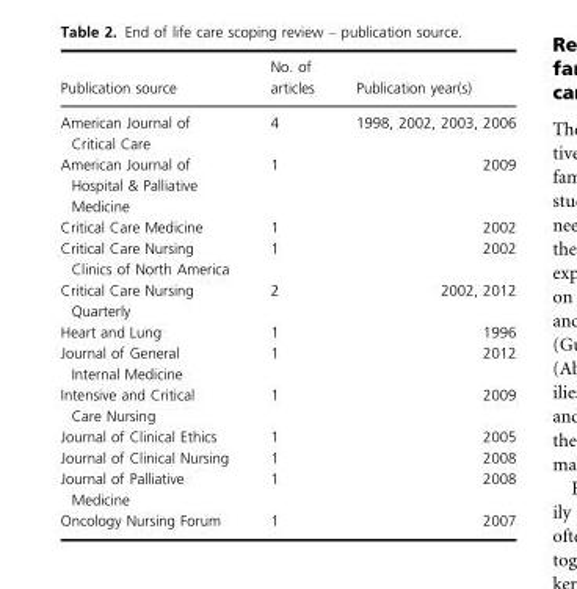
<table><thead><tr><td>Publication source</td><td>No. of articles</td><td>Publication year(s)</td></tr></thead><tbody><tr><td>American Journal of Critical Care</td><td>4</td><td>1998, 2002, 2003, 2006</td></tr><tr><td>American Journal of Hospital &amp; Palliative Medicine</td><td>1</td><td>2009</td></tr><tr><td>Critical Care Medicine</td><td>1</td><td>2002</td></tr><tr><td>Critical Care Nursing Clinics of North America</td><td>1</td><td>2002</td></tr><tr><td>Critical Care Nursing Quarterly</td><td>2</td><td>2002, 2012</td></tr><tr><td>Heart and Lung</td><td>1</td><td>1996</td></tr><tr><td>Journal of General Internal Medicine</td><td>1</td><td>2012</td></tr><tr><td>Intensive and Critical Care Nursing</td><td>1</td><td>2009</td></tr><tr><td>Journal of Clinical Ethics</td><td>1</td><td>2005</td></tr><tr><td>Journal of Clinical Nursing</td><td>1</td><td>2008</td></tr><tr><td>Journal of Palliative Medicine</td><td>1</td><td>2008</td></tr><tr><td>Oncology Nursing Forum</td><td>1</td><td>2007</td></tr></tbody></table>